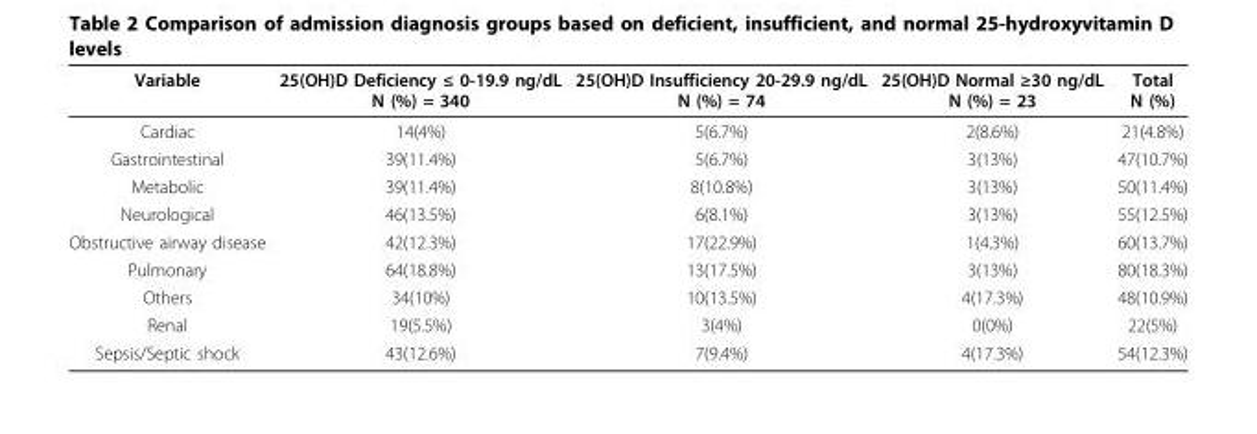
<table><thead><tr><td>Variable</td><td>25(OH)D Deficiency ≤ 0-19.9 ng/dL N (%) = 340</td><td>25(OH)D Insufficiency 20-29.9 ng/dL N (%) = 74</td><td>25(OH)D Normal ≥30 ng/dL N (%) = 23</td><td>Total N (%)</td></tr></thead><tbody><tr><td>Cardiac</td><td>14(4%)</td><td>5(6.7%)</td><td>2(8.6%)</td><td>21(4.8%)</td></tr><tr><td>Gastrointestinal</td><td>39(11.4%)</td><td>5(6.7%)</td><td>3(13%)</td><td>47(10.7%)</td></tr><tr><td>Metabolic</td><td>39(11.4%)</td><td>8(10.8%)</td><td>3(13%)</td><td>50(11.4%)</td></tr><tr><td>Neurological</td><td>46(13.5%)</td><td>6(8.1%)</td><td>3(13%)</td><td>55(12.5%)</td></tr><tr><td>Obstructive airway disease</td><td>42(12.3%)</td><td>17(22.9%)</td><td>1(4.3%)</td><td>60(13.7%)</td></tr><tr><td>Pulmonary</td><td>64(18.8%)</td><td>13(17.5%)</td><td>3(13%)</td><td>80(18.3%)</td></tr><tr><td>Others</td><td>34(10%)</td><td>10(13.5%)</td><td>4(17.3%)</td><td>48(10.9%)</td></tr><tr><td>Renal</td><td>19(5.5%)</td><td>3(4%)</td><td>0(0%)</td><td>22(5%)</td></tr><tr><td>Sepsis/Septic shock</td><td>43(12.6%)</td><td>7(9.4%)</td><td>4(17.3%)</td><td>54(12.3%)</td></tr></tbody></table>